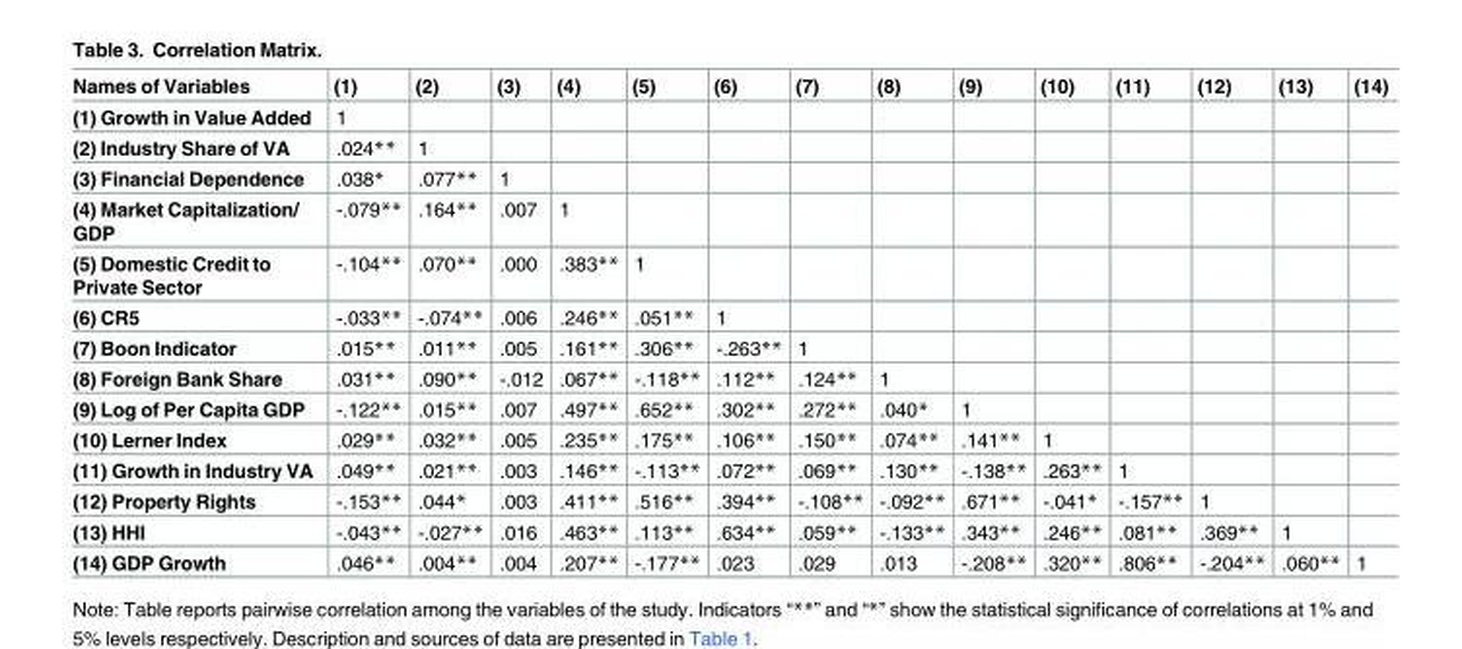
<table><thead><tr><td>Names of Variables</td><td>(1)</td><td>(2)</td><td>(3)</td><td>(4)</td><td>(5)</td><td>(6)</td><td>(7)</td><td>(8)</td><td>(9)</td><td>(10)</td><td>(11)</td><td>(12)</td><td>(13)</td><td>(14)</td></tr></thead><tbody><tr><td>(1) Growth in Value Added</td><td>1</td><td></td><td></td><td></td><td></td><td></td><td></td><td></td><td></td><td></td><td></td><td></td><td></td><td></td></tr><tr><td>(2) Industry Share of VA</td><td>.024**</td><td>1</td><td></td><td></td><td></td><td></td><td></td><td></td><td></td><td></td><td></td><td></td><td></td><td></td></tr><tr><td>(3) Financial Dependence</td><td>.038*</td><td>.077**</td><td>1</td><td></td><td></td><td></td><td></td><td></td><td></td><td></td><td></td><td></td><td></td><td></td></tr><tr><td>(4) Market Capitalization/ GDP</td><td>-.079**</td><td>.164**</td><td>.007</td><td>1</td><td></td><td></td><td></td><td></td><td></td><td></td><td></td><td></td><td></td><td></td></tr><tr><td>(5) Domestic Credit to Private Sector</td><td>-.104**</td><td>.070**</td><td>.000</td><td>.383**</td><td>1</td><td></td><td></td><td></td><td></td><td></td><td></td><td></td><td></td><td></td></tr><tr><td>(6) CR5</td><td>-.033**</td><td>-.074**</td><td>.006</td><td>.246**</td><td>.051**</td><td>1</td><td></td><td></td><td></td><td></td><td></td><td></td><td></td><td></td></tr><tr><td>(7) Boon Indicator</td><td>.015**</td><td>.011**</td><td>.005</td><td>.161**</td><td>.306**</td><td>-.263**</td><td>1</td><td></td><td></td><td></td><td></td><td></td><td></td><td></td></tr><tr><td>(8) Foreign Bank Share</td><td>.031**</td><td>.090**</td><td>-.012</td><td>.067**</td><td>-.118**</td><td>.112**</td><td>.124**</td><td>1</td><td></td><td></td><td></td><td></td><td></td><td></td></tr><tr><td>(9) Log of Per Capita GDP</td><td>-.122**</td><td>.015**</td><td>.007</td><td>.497**</td><td>.652**</td><td>.302**</td><td>.272**</td><td>.040*</td><td>1</td><td></td><td></td><td></td><td></td><td></td></tr><tr><td>(10) Lerner Index</td><td>.029**</td><td>.032**</td><td>.005</td><td>.235**</td><td>.175**</td><td>.106**</td><td>.150**</td><td>.074**</td><td>.141**</td><td>1</td><td></td><td></td><td></td><td></td></tr><tr><td>(11) Growth in Industry VA</td><td>.049**</td><td>.021**</td><td>.003</td><td>.146**</td><td>-.113**</td><td>.072**</td><td>.069**</td><td>.130**</td><td>-.138**</td><td>.263**</td><td>1</td><td></td><td></td><td></td></tr><tr><td>(12) Property Rights</td><td>-.153**</td><td>.044*</td><td>.003</td><td>.411**</td><td>.516**</td><td>.394**</td><td>-.108**</td><td>-.092**</td><td>.671**</td><td>-.041*</td><td>-.157**</td><td>1</td><td></td><td></td></tr><tr><td>(13) HHI</td><td>-.043**</td><td>-.027**</td><td>.016</td><td>.463**</td><td>.113**</td><td>.634**</td><td>.059**</td><td>-.133**</td><td>.343**</td><td>.246**</td><td>.081**</td><td>.369**</td><td>1</td><td></td></tr><tr><td>(14) GDP Growth</td><td>.046**</td><td>.004**</td><td>.004</td><td>.207**</td><td>-.177**</td><td>.023</td><td>.029</td><td>.013</td><td>-.208**</td><td>.320**</td><td>.806**</td><td>-.204**</td><td>.060**</td><td>1</td></tr></tbody></table>